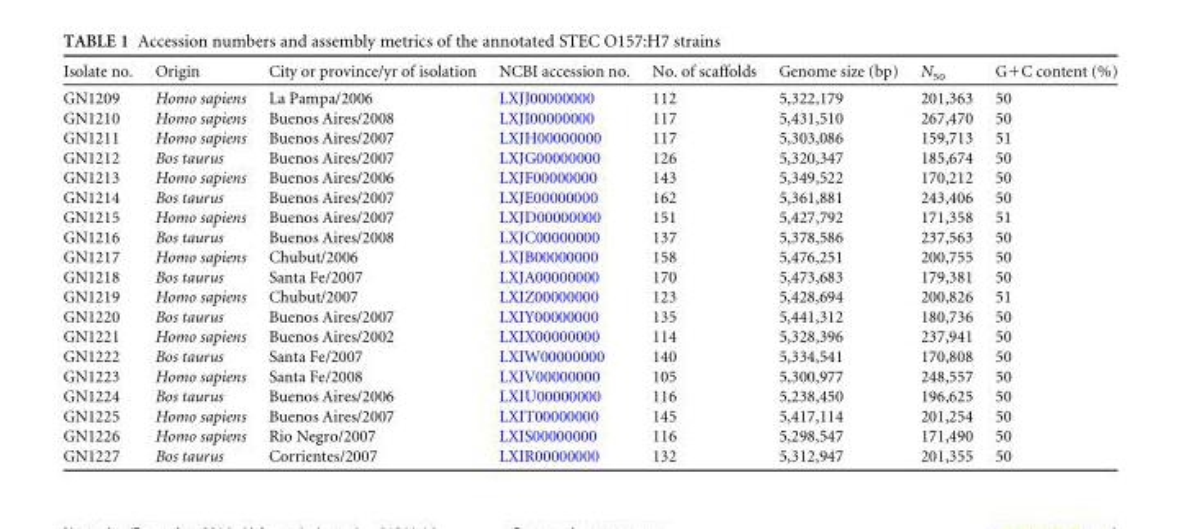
<table><thead><tr><td>Isolate no.</td><td>Origin</td><td>City or province/yr of isolation</td><td>NCBI accession no.</td><td>No. of scaffolds</td><td>Genome size (bp)</td><td>N<sub>50</sub></td><td>G+C content (%)</td></tr></thead><tbody><tr><td>GN1209</td><td>Homo sapiens</td><td>La Pampa/2006</td><td>LXJJ00000000</td><td>112</td><td>5,322,179</td><td>201,363</td><td>50</td></tr><tr><td>GN1210</td><td>Homo sapiens</td><td>Buenos Aires/2008</td><td>LXJI00000000</td><td>117</td><td>5,431,510</td><td>267,470</td><td>50</td></tr><tr><td>GN1211</td><td>Homo sapiens</td><td>Buenos Aires/2007</td><td>LXJH00000000</td><td>117</td><td>5,303,086</td><td>159,713</td><td>51</td></tr><tr><td>GN1212</td><td>Bos taurus</td><td>Buenos Aires/2007</td><td>LXJG00000000</td><td>126</td><td>5,320,347</td><td>185,674</td><td>50</td></tr><tr><td>GN1213</td><td>Homo sapiens</td><td>Buenos Aires/2006</td><td>LXJF00000000</td><td>143</td><td>5,349,522</td><td>170,212</td><td>50</td></tr><tr><td>GN1214</td><td>Bos taurus</td><td>Buenos Aires/2007</td><td>LXJE00000000</td><td>162</td><td>5,361,881</td><td>243,406</td><td>50</td></tr><tr><td>GN1215</td><td>Homo sapiens</td><td>Buenos Aires/2007</td><td>LXJD00000000</td><td>151</td><td>5,427,792</td><td>171,358</td><td>51</td></tr><tr><td>GN1216</td><td>Bos taurus</td><td>Buenos Aires/2008</td><td>LXJC00000000</td><td>137</td><td>5,378,586</td><td>237,563</td><td>50</td></tr><tr><td>GN1217</td><td>Homo sapiens</td><td>Chubut/2006</td><td>LXJB00000000</td><td>158</td><td>5,476,251</td><td>200,755</td><td>50</td></tr><tr><td>GN1218</td><td>Bos taurus</td><td>Santa Fe/2007</td><td>LXJA00000000</td><td>170</td><td>5,473,683</td><td>179,381</td><td>50</td></tr><tr><td>GN1219</td><td>Homo sapiens</td><td>Chubut/2007</td><td>LXIZ00000000</td><td>123</td><td>5,428,694</td><td>200,826</td><td>51</td></tr><tr><td>GN1220</td><td>Bos taurus</td><td>Buenos Aires/2007</td><td>LXIY00000000</td><td>135</td><td>5,441,312</td><td>180,736</td><td>50</td></tr><tr><td>GN1221</td><td>Homo sapiens</td><td>Buenos Aires/2002</td><td>LXIX00000000</td><td>114</td><td>5,328,396</td><td>237,941</td><td>50</td></tr><tr><td>GN1222</td><td>Bos taurus</td><td>Santa Fe/2007</td><td>LXIW00000000</td><td>140</td><td>5,334,541</td><td>170,808</td><td>50</td></tr><tr><td>GN1223</td><td>Homo sapiens</td><td>Santa Fe/2008</td><td>LXIV00000000</td><td>105</td><td>5,300,977</td><td>248,557</td><td>50</td></tr><tr><td>GN1224</td><td>Bos taurus</td><td>Buenos Aires/2006</td><td>LXIU00000000</td><td>116</td><td>5,238,450</td><td>196,625</td><td>50</td></tr><tr><td>GN1225</td><td>Homo sapiens</td><td>Buenos Aires/2007</td><td>LXIT00000000</td><td>145</td><td>5,417,114</td><td>201,254</td><td>50</td></tr><tr><td>GN1226</td><td>Homo sapiens</td><td>Rio Negro/2007</td><td>LXIS00000000</td><td>116</td><td>5,298,547</td><td>171,490</td><td>50</td></tr><tr><td>GN1227</td><td>Bos taurus</td><td>Corrientes/2007</td><td>LXIR00000000</td><td>132</td><td>5,312,947</td><td>201,355</td><td>50</td></tr></tbody></table>